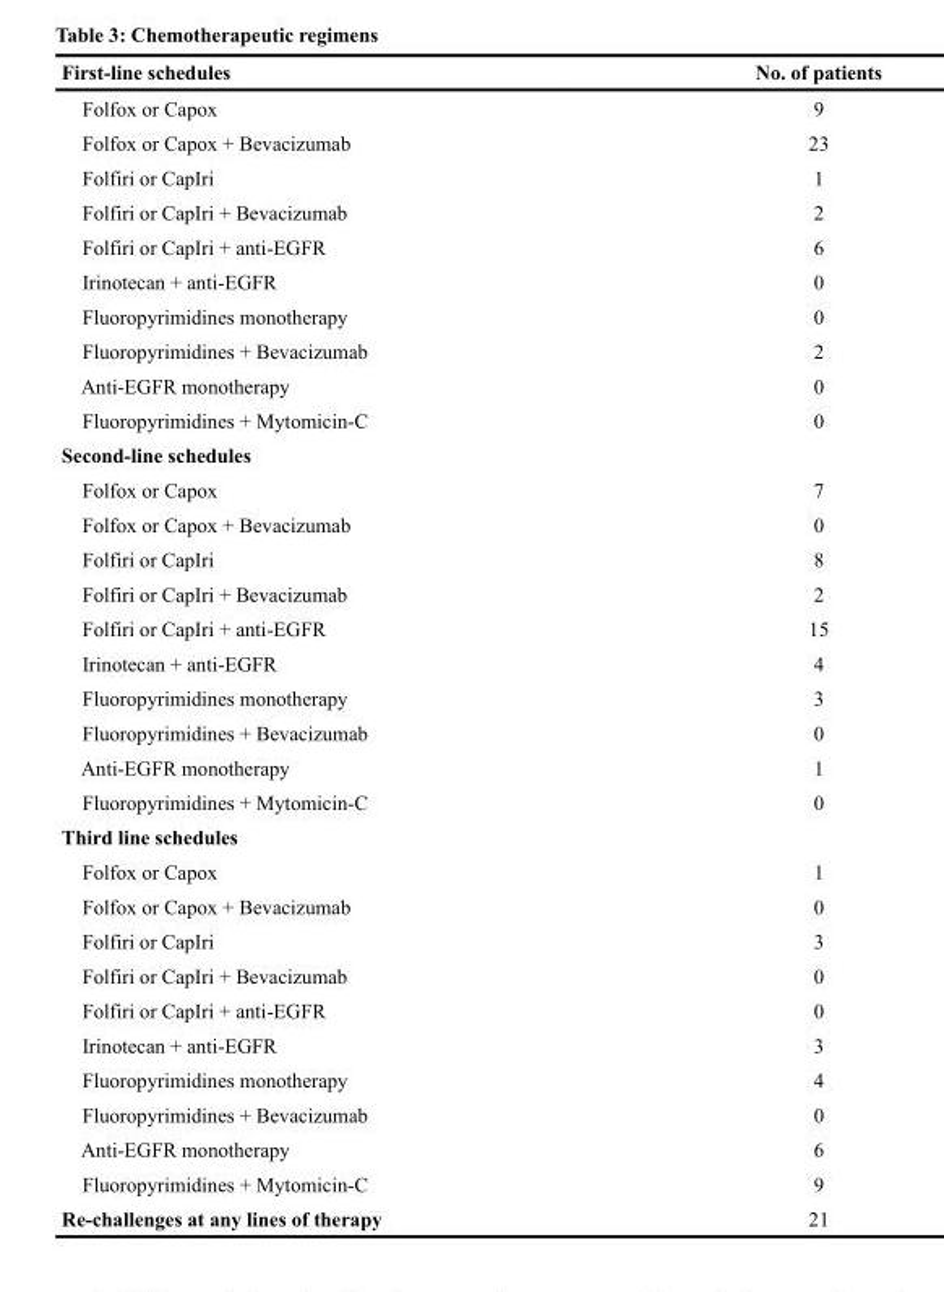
<table><thead><tr><td>First-line schedules</td><td>No. of patients</td></tr></thead><tbody><tr><td>Folfox or Capox</td><td>9</td></tr><tr><td>Folfox or Capox + Bevacizumab</td><td>23</td></tr><tr><td>Folfiri or CapIri</td><td>1</td></tr><tr><td>Folfiri or CapIri + Bevacizumab</td><td>2</td></tr><tr><td>Folfiri or CapIri + anti-EGFR</td><td>6</td></tr><tr><td>Irinotecan + anti-EGFR</td><td>0</td></tr><tr><td>Fluoropyrimidines monotherapy</td><td>0</td></tr><tr><td>Fluoropyrimidines + Bevacizumab</td><td>2</td></tr><tr><td>Anti-EGFR monotherapy</td><td>0</td></tr><tr><td>Fluoropyrimidines + Mytomicin-C</td><td>0</td></tr><tr><td colspan="2">Second-line schedules</td></tr><tr><td>Folfox or Capox</td><td>7</td></tr><tr><td>Folfox or Capox + Bevacizumab</td><td>0</td></tr><tr><td>Folfiri or CapIri</td><td>8</td></tr><tr><td>Folfiri or CapIri + Bevacizumab</td><td>2</td></tr><tr><td>Folfiri or CapIri + anti-EGFR</td><td>15</td></tr><tr><td>Irinotecan + anti-EGFR</td><td>4</td></tr><tr><td>Fluoropyrimidines monotherapy</td><td>3</td></tr><tr><td>Fluoropyrimidines + Bevacizumab</td><td>0</td></tr><tr><td>Anti-EGFR monotherapy</td><td>1</td></tr><tr><td>Fluoropyrimidines + Mytomicin-C</td><td>0</td></tr><tr><td colspan="2">Third line schedules</td></tr><tr><td>Folfox or Capox</td><td>1</td></tr><tr><td>Folfox or Capox + Bevacizumab</td><td>0</td></tr><tr><td>Folfiri or CapIri</td><td>3</td></tr><tr><td>Folfiri or CapIri + Bevacizumab</td><td>0</td></tr><tr><td>Folfiri or CapIri + anti-EGFR</td><td>0</td></tr><tr><td>Irinotecan + anti-EGFR</td><td>3</td></tr><tr><td>Fluoropyrimidines monotherapy</td><td>4</td></tr><tr><td>Fluoropyrimidines + Bevacizumab</td><td>0</td></tr><tr><td>Anti-EGFR monotherapy</td><td>6</td></tr><tr><td>Fluoropyrimidines + Mytomicin-C</td><td>9</td></tr><tr><td>Re-challenges at any lines of therapy</td><td>21</td></tr></tbody></table>